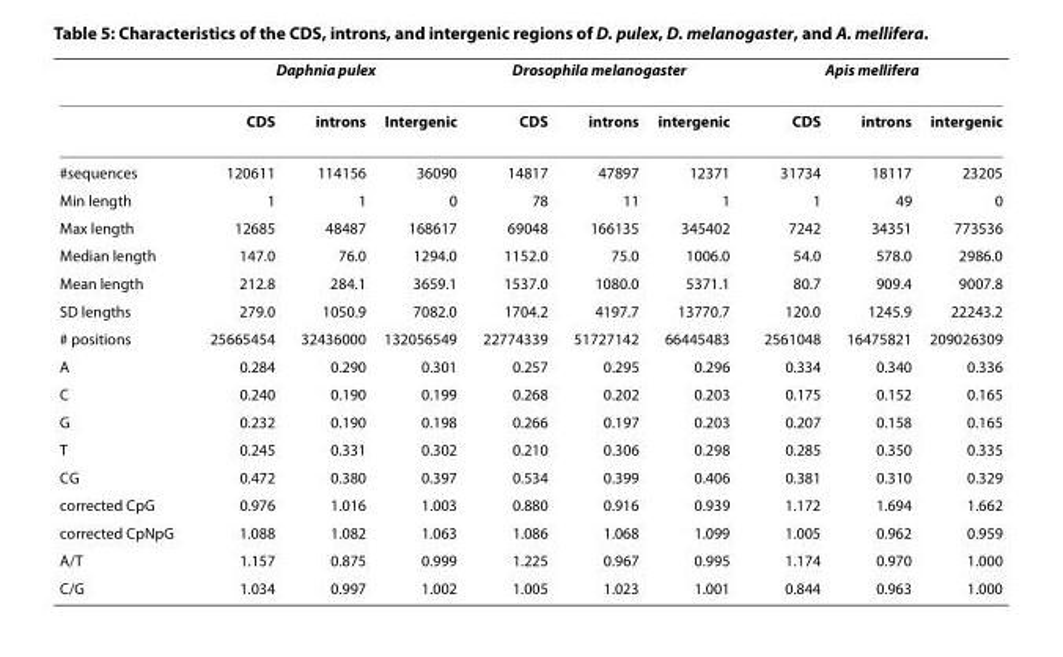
<table><thead><tr><td rowspan="2"></td><td colspan="3">Daphnia pulex</td><td colspan="3">Drosophila melanogaster</td><td colspan="3">Apis mellifera</td></tr><tr><td>CDS</td><td>introns</td><td>Intergenic</td><td>CDS</td><td>introns</td><td>intergenic</td><td>CDS</td><td>introns</td><td>intergenic</td></tr></thead><tbody><tr><td>#sequences</td><td>120611</td><td>114156</td><td>36090</td><td>14817</td><td>47897</td><td>12371</td><td>31734</td><td>18117</td><td>23205</td></tr><tr><td>Min length</td><td>1</td><td>1</td><td>0</td><td>78</td><td>11</td><td>1</td><td>1</td><td>49</td><td>0</td></tr><tr><td>Max length</td><td>12685</td><td>48487</td><td>168617</td><td>69048</td><td>166135</td><td>345402</td><td>7242</td><td>34351</td><td>773536</td></tr><tr><td>Median length</td><td>147.0</td><td>76.0</td><td>1294.0</td><td>1152.0</td><td>75.0</td><td>1006.0</td><td>54.0</td><td>578.0</td><td>2986.0</td></tr><tr><td>Mean length</td><td>212.8</td><td>284.1</td><td>3659.1</td><td>1537.0</td><td>1080.0</td><td>5371.1</td><td>80.7</td><td>909.4</td><td>9007.8</td></tr><tr><td>SD lengths</td><td>279.0</td><td>1050.9</td><td>7082.0</td><td>1704.2</td><td>4197.7</td><td>13770.7</td><td>120.0</td><td>1245.9</td><td>22243.2</td></tr><tr><td># positions</td><td>25665454</td><td>32436000</td><td>132056549</td><td>22774339</td><td>51727142</td><td>66445483</td><td>2561048</td><td>16475821</td><td>209026309</td></tr><tr><td>A</td><td>0.284</td><td>0.290</td><td>0.301</td><td>0.257</td><td>0.295</td><td>0.296</td><td>0.334</td><td>0.340</td><td>0.336</td></tr><tr><td>C</td><td>0.240</td><td>0.190</td><td>0.199</td><td>0.268</td><td>0.202</td><td>0.203</td><td>0.175</td><td>0.152</td><td>0.165</td></tr><tr><td>G</td><td>0.232</td><td>0.190</td><td>0.198</td><td>0.266</td><td>0.197</td><td>0.203</td><td>0.207</td><td>0.158</td><td>0.165</td></tr><tr><td>T</td><td>0.245</td><td>0.331</td><td>0.302</td><td>0.210</td><td>0.306</td><td>0.298</td><td>0.285</td><td>0.350</td><td>0.335</td></tr><tr><td>CG</td><td>0.472</td><td>0.380</td><td>0.397</td><td>0.534</td><td>0.399</td><td>0.406</td><td>0.381</td><td>0.310</td><td>0.329</td></tr><tr><td>corrected CpG</td><td>0.976</td><td>1.016</td><td>1.003</td><td>0.880</td><td>0.916</td><td>0.939</td><td>1.172</td><td>1.694</td><td>1.662</td></tr><tr><td>corrected CpNpG</td><td>1.088</td><td>1.082</td><td>1.063</td><td>1.086</td><td>1.068</td><td>1.099</td><td>1.005</td><td>0.962</td><td>0.959</td></tr><tr><td>A/T</td><td>1.157</td><td>0.875</td><td>0.999</td><td>1.225</td><td>0.967</td><td>0.995</td><td>1.174</td><td>0.970</td><td>1.000</td></tr><tr><td>C/G</td><td>1.034</td><td>0.997</td><td>1.002</td><td>1.005</td><td>1.023</td><td>1.001</td><td>0.844</td><td>0.963</td><td>1.000</td></tr></tbody></table>